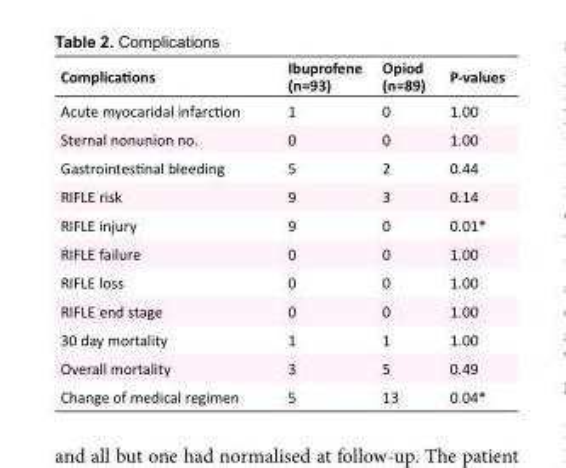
<table><tbody><tr><td>Complications</td><td>Ibuprofene (n=93)</td><td>Opiod (n=89)</td><td>P-values</td></tr><tr><td>Acute myocaridal infarction</td><td>1</td><td>0</td><td>1.00</td></tr><tr><td>Sternal nonunion no.</td><td>0</td><td>0</td><td>1.00</td></tr><tr><td>Gastrointestinal bleeding</td><td>5</td><td>2</td><td>0.44</td></tr><tr><td>RIFLE risk</td><td>9</td><td>3</td><td>0.14</td></tr><tr><td>RIFLE injury</td><td>9</td><td>0</td><td>0.01*</td></tr><tr><td>RIFLE failure</td><td>0</td><td>0</td><td>1.00</td></tr><tr><td>RIFLE loss</td><td>0</td><td>0</td><td>1.00</td></tr><tr><td>RIFLE end stage</td><td>0</td><td>0</td><td>1.00</td></tr><tr><td>30 day mortality</td><td>1</td><td>1</td><td>1.00</td></tr><tr><td>Overall mortality</td><td>3</td><td>5</td><td>0.49</td></tr><tr><td>Change of medical regimen</td><td>5</td><td>13</td><td>0.04*</td></tr></tbody></table>